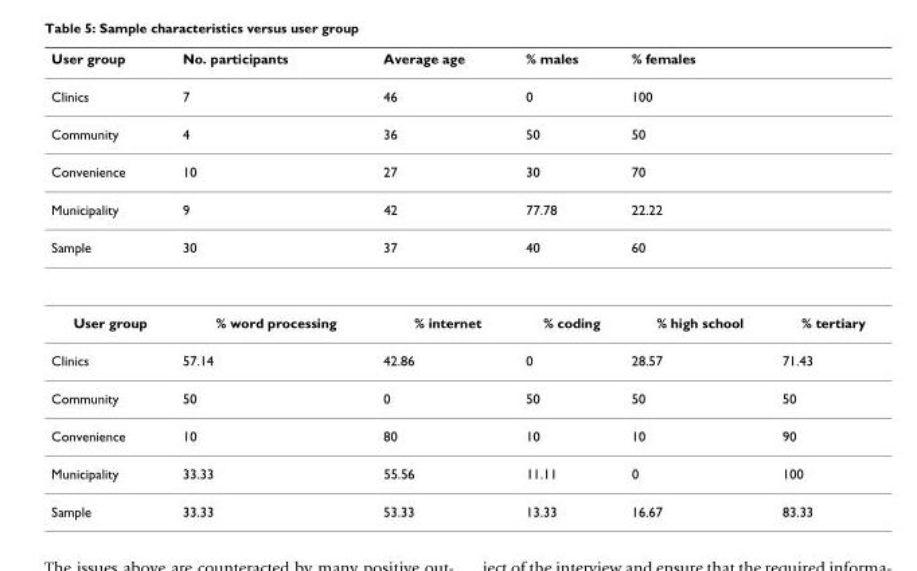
<table><thead><tr><td>User group</td><td>No. participants</td><td>Average age</td><td>% males</td><td>% females</td><td></td></tr></thead><tbody><tr><td>Clinics</td><td>7</td><td>46</td><td>0</td><td>100</td><td></td></tr><tr><td>Community</td><td>4</td><td>36</td><td>50</td><td>50</td><td></td></tr><tr><td>Convenience</td><td>10</td><td>27</td><td>30</td><td>70</td><td></td></tr><tr><td>Municipality</td><td>9</td><td>42</td><td>77.78</td><td>22.22</td><td></td></tr><tr><td>Sample</td><td>30</td><td>37</td><td>40</td><td>60</td><td></td></tr><tr><td>User group</td><td>% word processing</td><td>% internet</td><td>% coding</td><td>% high school</td><td>% tertiary</td></tr><tr><td>Clinics</td><td>57.14</td><td>42.86</td><td>0</td><td>28.57</td><td>71.43</td></tr><tr><td>Community</td><td>50</td><td>0</td><td>50</td><td>50</td><td>50</td></tr><tr><td>Convenience</td><td>10</td><td>80</td><td>10</td><td>10</td><td>90</td></tr><tr><td>Municipality</td><td>33.33</td><td>55.56</td><td>11.11</td><td>0</td><td>100</td></tr><tr><td>Sample</td><td>33.33</td><td>53.33</td><td>13.33</td><td>16.67</td><td>83.33</td></tr></tbody></table>